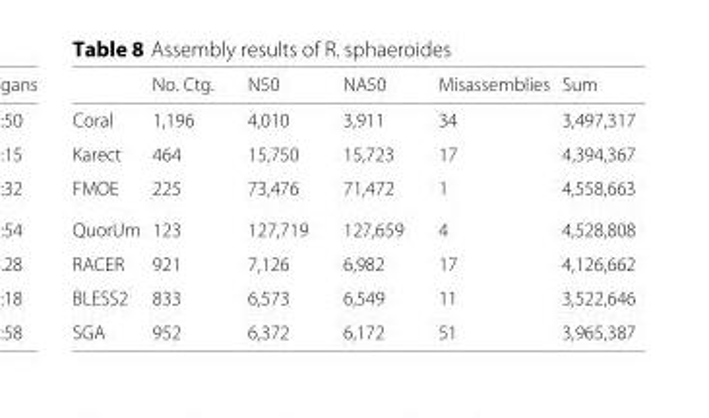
<table><thead><tr><td></td><td>No. Ctg.</td><td>N50</td><td>NA50</td><td>Misassemblies</td><td>Sum</td></tr></thead><tbody><tr><td>Coral</td><td>1,196</td><td>4,010</td><td>3,911</td><td>34</td><td>3,497,317</td></tr><tr><td>Karect</td><td>464</td><td>15,750</td><td>15,723</td><td>17</td><td>4,394,367</td></tr><tr><td>FMOE</td><td>225</td><td>73,476</td><td>71,472</td><td>1</td><td>4,558,663</td></tr><tr><td>QuorUm</td><td>123</td><td>127,719</td><td>127,659</td><td>4</td><td>4,528,808</td></tr><tr><td>RACER</td><td>921</td><td>7,126</td><td>6,982</td><td>17</td><td>4,126,662</td></tr><tr><td>BLESS2</td><td>833</td><td>6,573</td><td>6,549</td><td>11</td><td>3,522,646</td></tr><tr><td>SGA</td><td>952</td><td>6,372</td><td>6,172</td><td>51</td><td>3,965,387</td></tr></tbody></table>